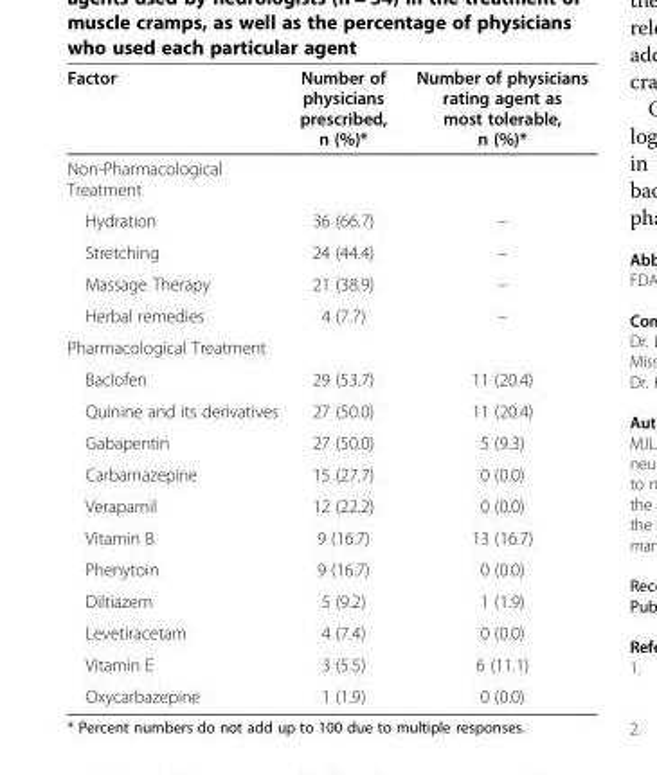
<table><thead><tr><td>Factor</td><td>Number of physicians prescribed, n (%)*</td><td>Number of physicians rating agent as most tolerable, n (%)*</td></tr></thead><tbody><tr><td colspan="3">Non-Pharmacological Treatment</td></tr><tr><td>Hydration</td><td>36 (66.7)</td><td>–</td></tr><tr><td>Stretching</td><td>24 (44.4)</td><td>–</td></tr><tr><td>Massage Therapy</td><td>21 (38.9)</td><td>–</td></tr><tr><td>Herbal remedies</td><td>4 (7.7)</td><td>–</td></tr><tr><td colspan="3">Pharmacological Treatment</td></tr><tr><td>Baclofen</td><td>29 (53.7)</td><td>11 (20.4)</td></tr><tr><td>Quinine and its derivatives</td><td>27 (50.0)</td><td>11 (20.4)</td></tr><tr><td>Gabapentin</td><td>27 (50.0)</td><td>5 (9.3)</td></tr><tr><td>Carbamazepine</td><td>15 (27.7)</td><td>0 (0.0)</td></tr><tr><td>Verapamil</td><td>12 (22.2)</td><td>0 (0.0)</td></tr><tr><td>Vitamin B</td><td>9 (16.7)</td><td>13 (16.7)</td></tr><tr><td>Phenytoin</td><td>9 (16.7)</td><td>0 (0.0)</td></tr><tr><td>Diltiazem</td><td>5 (9.2)</td><td>1 (1.9)</td></tr><tr><td>Levetiracetam</td><td>4 (7.4)</td><td>0 (0.0)</td></tr><tr><td>Vitamin E</td><td>3 (5.5)</td><td>6 (11.1)</td></tr><tr><td>Oxycarbazepine</td><td>1 (1.9)</td><td>0 (0.0)</td></tr></tbody></table>